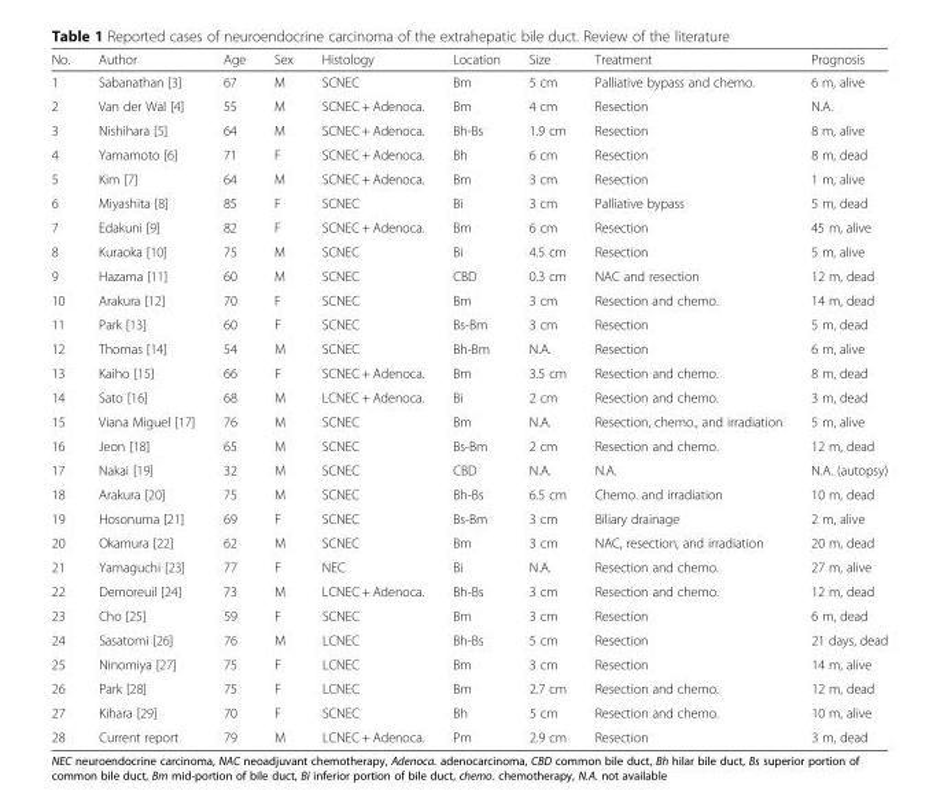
<table><thead><tr><td>No.</td><td>Author</td><td>Age</td><td>Sex</td><td>Histology</td><td>Location</td><td>Size</td><td>Treatment</td><td>Prognosis</td></tr></thead><tbody><tr><td>1</td><td>Sabanathan [3]</td><td>67</td><td>M</td><td>SCNEC</td><td>Bm</td><td>5 cm</td><td>Palliative bypass and chemo.</td><td>6 m, alive</td></tr><tr><td>2</td><td>Van der Wal [4]</td><td>55</td><td>M</td><td>SCNEC + Adenoca.</td><td>Bm</td><td>4 cm</td><td>Resection</td><td>N.A.</td></tr><tr><td>3</td><td>Nishihara [5]</td><td>64</td><td>M</td><td>SCNEC + Adenoca.</td><td>Bh-Bs</td><td>1.9 cm</td><td>Resection</td><td>8 m, alive</td></tr><tr><td>4</td><td>Yamamoto [6]</td><td>71</td><td>F</td><td>SCNEC + Adenoca.</td><td>Bh</td><td>6 cm</td><td>Resection</td><td>8 m, dead</td></tr><tr><td>5</td><td>Kim [7]</td><td>64</td><td>M</td><td>SCNEC + Adenoca.</td><td>Bm</td><td>3 cm</td><td>Resection</td><td>1 m, alive</td></tr><tr><td>6</td><td>Miyashita [8]</td><td>85</td><td>F</td><td>SCNEC</td><td>Bi</td><td>3 cm</td><td>Palliative bypass</td><td>5 m, dead</td></tr><tr><td>7</td><td>Edakuni [9]</td><td>82</td><td>F</td><td>SCNEC + Adenoca.</td><td>Bm</td><td>6 cm</td><td>Resection</td><td>45 m, alive</td></tr><tr><td>8</td><td>Kuraoka [10]</td><td>75</td><td>M</td><td>SCNEC</td><td>Bi</td><td>4.5 cm</td><td>Resection</td><td>5 m, alive</td></tr><tr><td>9</td><td>Hazama [11]</td><td>60</td><td>M</td><td>SCNEC</td><td>CBD</td><td>0.3 cm</td><td>NAC and resection</td><td>12 m, dead</td></tr><tr><td>10</td><td>Arakura [12]</td><td>70</td><td>F</td><td>SCNEC</td><td>Bm</td><td>3 cm</td><td>Resection and chemo.</td><td>14 m, dead</td></tr><tr><td>11</td><td>Park [13]</td><td>60</td><td>F</td><td>SCNEC</td><td>Bs-Bm</td><td>3 cm</td><td>Resection</td><td>5 m, dead</td></tr><tr><td>12</td><td>Thomas [14]</td><td>54</td><td>M</td><td>SCNEC</td><td>Bh-Bm</td><td>N.A.</td><td>Resection</td><td>6 m, alive</td></tr><tr><td>13</td><td>Kaiho [15]</td><td>66</td><td>F</td><td>SCNEC + Adenoca.</td><td>Bm</td><td>3.5 cm</td><td>Resection and chemo.</td><td>8 m, dead</td></tr><tr><td>14</td><td>Sato [16]</td><td>68</td><td>M</td><td>LCNEC + Adenoca.</td><td>Bi</td><td>2 cm</td><td>Resection and chemo.</td><td>3 m, dead</td></tr><tr><td>15</td><td>Viana Miguel [17]</td><td>76</td><td>M</td><td>SCNEC</td><td>Bm</td><td>N.A.</td><td>Resection, chemo., and irradiation</td><td>5 m, alive</td></tr><tr><td>16</td><td>Jeon [18]</td><td>65</td><td>M</td><td>SCNEC</td><td>Bs-Bm</td><td>2 cm</td><td>Resection and chemo.</td><td>12 m, dead</td></tr><tr><td>17</td><td>Nakai [19]</td><td>32</td><td>M</td><td>SCNEC</td><td>CBD</td><td>N.A.</td><td>N.A.</td><td>N.A. (autopsy)</td></tr><tr><td>18</td><td>Arakura [20]</td><td>75</td><td>M</td><td>SCNEC</td><td>Bh-Bs</td><td>6.5 cm</td><td>Chemo. and irradiation</td><td>10 m, dead</td></tr><tr><td>19</td><td>Hosonuma [21]</td><td>69</td><td>F</td><td>SCNEC</td><td>Bs-Bm</td><td>3 cm</td><td>Biliary drainage</td><td>2 m, alive</td></tr><tr><td>20</td><td>Okamura [22]</td><td>62</td><td>M</td><td>SCNEC</td><td>Bm</td><td>3 cm</td><td>NAC, resection, and irradiation</td><td>20 m, dead</td></tr><tr><td>21</td><td>Yamaguchi [23]</td><td>77</td><td>F</td><td>NEC</td><td>Bi</td><td>N.A.</td><td>Resection and chemo.</td><td>27 m, alive</td></tr><tr><td>22</td><td>Demoreuil [24]</td><td>73</td><td>M</td><td>LCNEC + Adenoca.</td><td>Bh-Bs</td><td>3 cm</td><td>Resection and chemo.</td><td>12 m, dead</td></tr><tr><td>23</td><td>Cho [25]</td><td>59</td><td>F</td><td>SCNEC</td><td>Bm</td><td>3 cm</td><td>Resection</td><td>6 m, dead</td></tr><tr><td>24</td><td>Sasatomi [26]</td><td>76</td><td>M</td><td>LCNEC</td><td>Bh-Bs</td><td>5 cm</td><td>Resection</td><td>21 days, dead</td></tr><tr><td>25</td><td>Ninomiya [27]</td><td>75</td><td>F</td><td>LCNEC</td><td>Bm</td><td>3 cm</td><td>Resection</td><td>14 m, alive</td></tr><tr><td>26</td><td>Park [28]</td><td>75</td><td>F</td><td>LCNEC</td><td>Bm</td><td>2.7 cm</td><td>Resection and chemo.</td><td>12 m, dead</td></tr><tr><td>27</td><td>Kihara [29]</td><td>70</td><td>F</td><td>SCNEC</td><td>Bh</td><td>5 cm</td><td>Resection and chemo.</td><td>10 m, alive</td></tr><tr><td>28</td><td>Current report</td><td>79</td><td>M</td><td>LCNEC + Adenoca.</td><td>Pm</td><td>2.9 cm</td><td>Resection</td><td>3 m, dead</td></tr></tbody></table>